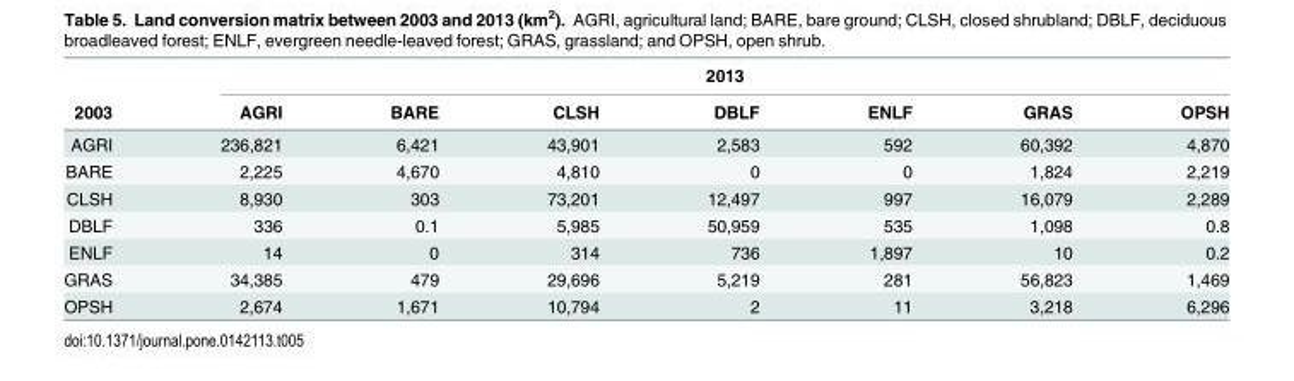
<table><thead><tr><td rowspan="2">2003</td><td colspan="7">2013</td></tr><tr><td>AGRI</td><td>BARE</td><td>CLSH</td><td>DBLF</td><td>ENLF</td><td>GRAS</td><td>OPSH</td></tr></thead><tbody><tr><td>AGRI</td><td>236,821</td><td>6,421</td><td>43,901</td><td>2,583</td><td>592</td><td>60,392</td><td>4,870</td></tr><tr><td>BARE</td><td>2,225</td><td>4,670</td><td>4,810</td><td>0</td><td>0</td><td>1,824</td><td>2,219</td></tr><tr><td>CLSH</td><td>8,930</td><td>303</td><td>73,201</td><td>12,497</td><td>997</td><td>16,079</td><td>2,289</td></tr><tr><td>DBLF</td><td>336</td><td>0.1</td><td>5,985</td><td>50,959</td><td>535</td><td>1,098</td><td>0.8</td></tr><tr><td>ENLF</td><td>14</td><td>0</td><td>314</td><td>736</td><td>1,897</td><td>10</td><td>0.2</td></tr><tr><td>GRAS</td><td>34,385</td><td>479</td><td>29,696</td><td>5,219</td><td>281</td><td>56,823</td><td>1,469</td></tr><tr><td>OPSH</td><td>2,674</td><td>1,671</td><td>10,794</td><td>2</td><td>11</td><td>3,218</td><td>6,296</td></tr></tbody></table>